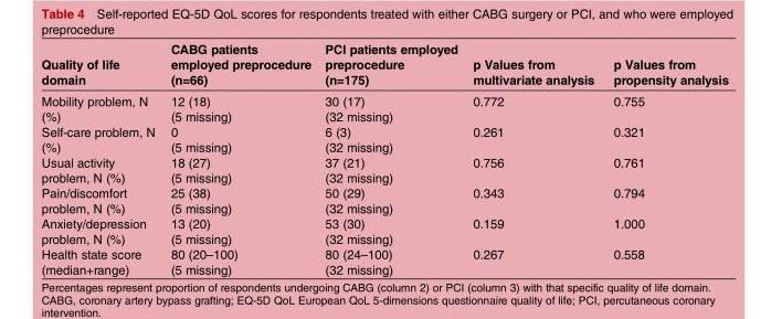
<table><thead><tr><td>Quality of life domain</td><td>CABG patients employed preprocedure (n=66)</td><td>PCI patients employed preprocedure (n=175)</td><td>p Values from multivariate analysis</td><td>p Values from propensity analysis</td></tr></thead><tbody><tr><td>Mobility problem, N (%)</td><td>12 (18) (5 missing)</td><td>30 (17) (32 missing)</td><td>0.772</td><td>0.755</td></tr><tr><td>Self-care problem, N (%)</td><td>0 (5 missing)</td><td>6 (3) (32 missing)</td><td>0.261</td><td>0.321</td></tr><tr><td>Usual activity problem, N (%)</td><td>18 (27) (5 missing)</td><td>37 (21) (32 missing)</td><td>0.756</td><td>0.761</td></tr><tr><td>Pain/discomfort problem, N (%)</td><td>25 (38) (5 missing)</td><td>50 (29) (32 missing)</td><td>0.343</td><td>0.794</td></tr><tr><td>Anxiety/depression problem, N (%)</td><td>13 (20) (5 missing)</td><td>53 (30) (32 missing)</td><td>0.159</td><td>1.000</td></tr><tr><td>Health state score (median+range)</td><td>80 (20–100) (5 missing)</td><td>80 (24–100) (32 missing)</td><td>0.267</td><td>0.558</td></tr></tbody></table>